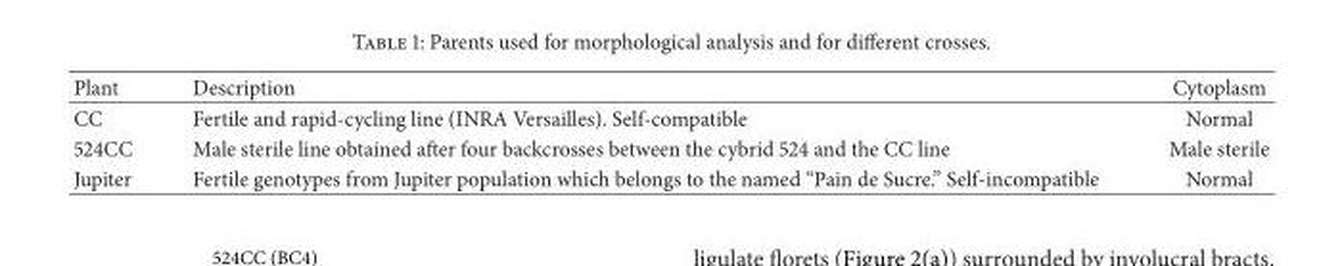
<table><thead><tr><td>Plant</td><td>Description</td><td>Cytoplasm</td></tr></thead><tbody><tr><td>CC</td><td>Fertile and rapid-cycling line (INRA Versailles). Self-compatible</td><td>Normal</td></tr><tr><td>524CC</td><td>Male sterile line obtained after four backcrosses between the cybrid 524 and the CC line</td><td>Male sterile</td></tr><tr><td>Jupiter</td><td>Fertile genotypes from Jupiter population which belongs to the named “Pain de Sucre.” Self-incompatible</td><td>Normal</td></tr></tbody></table>